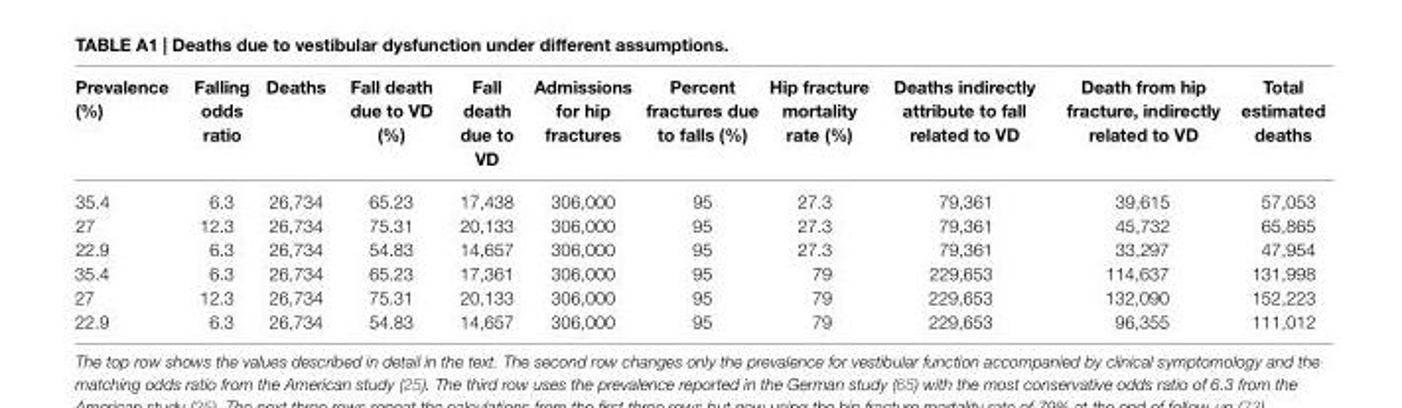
<table><thead><tr><td>Prevalence (%)</td><td>Falling odds ratio</td><td>Deaths</td><td>Fall death due to VD (%)</td><td>Fall death due to VD</td><td>admissions for hip fractures</td><td>Percent fractures due to falls (%)</td><td>hip fracture mortality rate (%)</td><td>Deaths indirectly attribute to fall related to VD</td><td>Death from hip fracture, indirectly related to VD</td><td>Total estimated deaths</td></tr></thead><tbody><tr><td>35.4</td><td>6.3</td><td>26,734</td><td>65.23</td><td>17,438</td><td>306,000</td><td>95</td><td>27.3</td><td>79,361</td><td>39,615</td><td>57,053</td></tr><tr><td>27</td><td>12.3</td><td>26,734</td><td>75.31</td><td>20,133</td><td>306,000</td><td>95</td><td>27.3</td><td>79,361</td><td>45,732</td><td>65,865</td></tr><tr><td>22.9</td><td>6.3</td><td>26,734</td><td>54.83</td><td>14,657</td><td>306,000</td><td>95</td><td>27.3</td><td>79,361</td><td>33,297</td><td>47,954</td></tr><tr><td>35.4</td><td>6.3</td><td>26,734</td><td>65.23</td><td>17,361</td><td>306,000</td><td>95</td><td>79</td><td>229,653</td><td>114,637</td><td>131,998</td></tr><tr><td>27</td><td>12.3</td><td>26,734</td><td>75.31</td><td>20,133</td><td>306,000</td><td>95</td><td>79</td><td>229,653</td><td>132,090</td><td>152,223</td></tr><tr><td>22.9</td><td>6.3</td><td>26,734</td><td>54.83</td><td>14,657</td><td>306,000</td><td>95</td><td>79</td><td>229,653</td><td>96,355</td><td>111,012</td></tr></tbody></table>